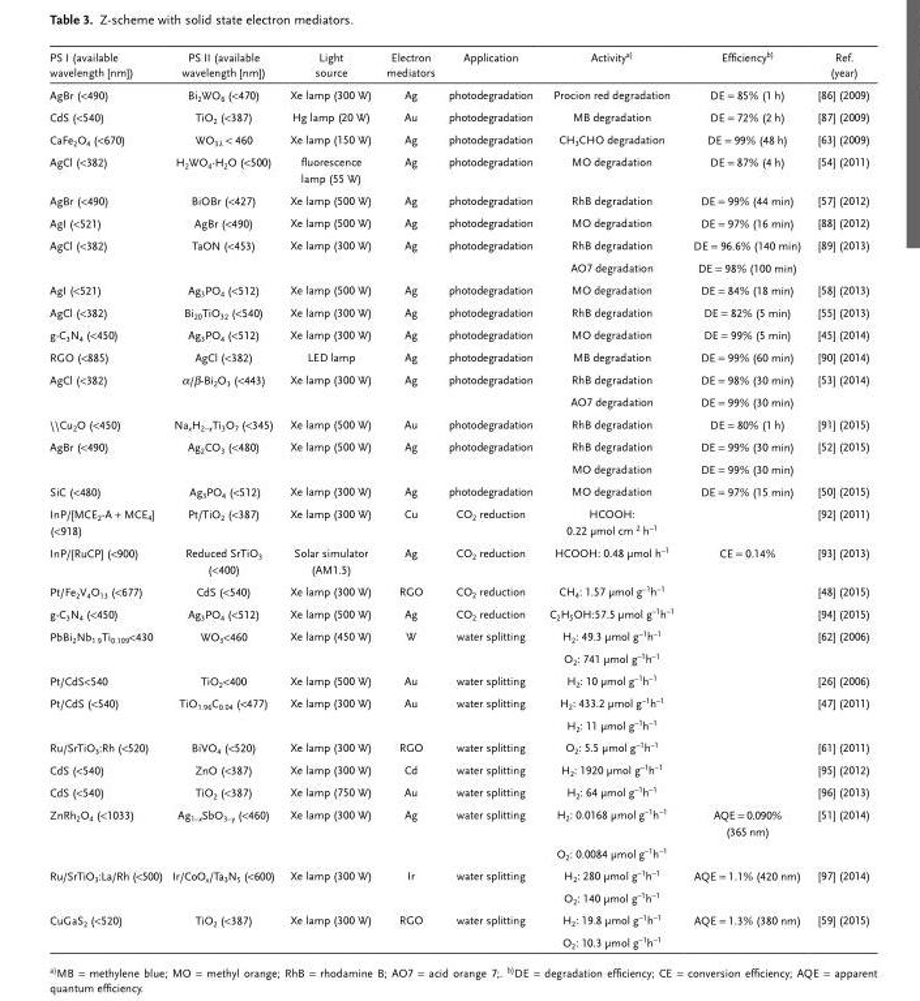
<table><thead><tr><td>PS I (available wavelength [nm])</td><td>PS II (available wavelength [nm])</td><td>Light source</td><td>Electron mediators</td><td>Application</td><td>Activitya)</td><td>Efficiencyb)</td><td>Ref. (year)</td></tr></thead><tbody><tr><td>AgBr (&lt;490)</td><td>Bi<sub>2</sub>WO<sub>6</sub> (&lt;470)</td><td>Xe lamp (300 W)</td><td>Ag</td><td>photodegradation</td><td>Procion red degradation</td><td>DE = 85% (1 h)</td><td>[86] (2009)</td></tr><tr><td>CdS (&lt;540)</td><td>TiO<sub>2</sub> (&lt;387)</td><td>Hg lamp (20 W)</td><td>Au</td><td>photodegradation</td><td>MB degradation</td><td>DE = 72% (2 h)</td><td>[87] (2009)</td></tr><tr><td>CaFe<sub>2</sub>O<sub>4</sub> (&lt;670)</td><td>WO<sub>3</sub>λ &lt; 460</td><td>Xe lamp (150 W)</td><td>Ag</td><td>photodegradation</td><td>CH<sub>3</sub>CHO degradation</td><td>DE = 99% (48 h)</td><td>[63] (2009)</td></tr><tr><td>AgCl (&lt;382)</td><td>H<sub>2</sub>WO<sub>4</sub>·H<sub>2</sub>O (&lt;500)</td><td>fluorescence lamp (55 W)</td><td>Ag</td><td>photodegradation</td><td>MO degradation</td><td>DE = 87% (4 h)</td><td>[54] (2011)</td></tr><tr><td>AgBr (&lt;490)</td><td>BiOBr (&lt;427)</td><td>Xe lamp (500 W)</td><td>Ag</td><td>photodegradation</td><td>RhB degradation</td><td>DE = 99% (44 min)</td><td>[57] (2012)</td></tr><tr><td>AgI (&lt;521)</td><td>AgBr (&lt;490)</td><td>Xe lamp (500 W)</td><td>Ag</td><td>photodegradation</td><td>MO degradation</td><td>DE = 97% (16 min)</td><td>[88] (2012)</td></tr><tr><td rowspan="2">AgCl (&lt;382)</td><td>TaON (&lt;453)</td><td>Xe lamp (300 W)</td><td>Ag</td><td>photodegradation</td><td>RhB degradation</td><td>DE = 96.6% (140 min)</td><td>[89] (2013)</td></tr><tr><td></td><td></td><td></td><td></td><td>AO7 degradation</td><td>DE = 98% (100 min)</td><td></td></tr><tr><td>AgI (&lt;521)</td><td>Ag<sub>3</sub>PO<sub>4</sub> (&lt;512)</td><td>Xe lamp (500 W)</td><td>Ag</td><td>photodegradation</td><td>MO degradation</td><td>DE = 84% (18 min)</td><td>[58] (2013)</td></tr><tr><td>AgCl (&lt;382)</td><td>Bi<sub>20</sub>TiO<sub>32</sub> (&lt;540)</td><td>Xe lamp (300 W)</td><td>Ag</td><td>photodegradation</td><td>RhB degradation</td><td>DE = 82% (5 min)</td><td>[55] (2013)</td></tr><tr><td>g-C<sub>3</sub>N<sub>4</sub> (&lt;450)</td><td>Ag<sub>3</sub>PO<sub>4</sub> (&lt;512)</td><td>Xe lamp (300 W)</td><td>Ag</td><td>photodegradation</td><td>MO degradation</td><td>DE = 99% (5 min)</td><td>[45] (2014)</td></tr><tr><td>RGO (&lt;885)</td><td>AgCl (&lt;382)</td><td>LED lamp</td><td>Ag</td><td>photodegradation</td><td>MB degradation</td><td>DE = 99% (60 min)</td><td>[90] (2014)</td></tr><tr><td rowspan="2">AgCl (&lt;382)</td><td>α/β-Bi<sub>2</sub>O<sub>3</sub> (&lt;443)</td><td>Xe lamp (300 W)</td><td>Ag</td><td>photodegradation</td><td>RhB degradation</td><td>DE = 98% (30 min)</td><td>[53] (2014)</td></tr><tr><td></td><td></td><td></td><td></td><td>AO7 degradation</td><td>DE = 99% (30 min)</td><td></td></tr><tr><td>\\Cu<sub>2</sub>O (&lt;450)</td><td>Na<sub>x</sub>H<sub>2−x</sub>Ti<sub>3</sub>O<sub>7</sub> (&lt;345)</td><td>Xe lamp (500 W)</td><td>Au</td><td>photodegradation</td><td>RhB degradation</td><td>DE = 80% (1 h)</td><td>[91] (2015)</td></tr><tr><td rowspan="2">AgBr (&lt;490)</td><td>Ag<sub>2</sub>CO<sub>3</sub> (&lt;480)</td><td>Xe lamp (500 W)</td><td>Ag</td><td>photodegradation</td><td>RhB degradation</td><td>DE = 99% (30 min)</td><td>[52] (2015)</td></tr><tr><td></td><td></td><td></td><td></td><td>MO degradation</td><td>DE = 99% (30 min)</td><td></td></tr><tr><td>SiC (&lt;480)</td><td>Ag<sub>3</sub>PO<sub>4</sub> (&lt;512)</td><td>Xe lamp (300 W)</td><td>Ag</td><td>photodegradation</td><td>MO degradation</td><td>DE = 97% (15 min)</td><td>[50] (2015)</td></tr><tr><td>InP/[MCE<sub>2</sub>-A + MCE<sub>4</sub>] (&lt;918)</td><td>Pt/TiO<sub>2</sub> (&lt;387)</td><td>Xe lamp (300 W)</td><td>Cu</td><td>CO<sub>2</sub> reduction</td><td>HCOOH: 0.22 μmol cm <sup>2</sup> h<sup>–1</sup></td><td></td><td>[92] (2011)</td></tr><tr><td>InP/[RuCP] (&lt;900)</td><td>Reduced SrTiO<sub>3</sub> (&lt;400)</td><td>Solar simulator (AM1.5)</td><td>Ag</td><td>CO<sub>2</sub> reduction</td><td>HCOOH: 0.48 μmol h<sup>–1</sup></td><td>CE = 0.14%</td><td>[93] (2013)</td></tr><tr><td>Pt/Fe<sub>2</sub>V<sub>4</sub>O<sub>13</sub> (&lt;677)</td><td>CdS (&lt;540)</td><td>Xe lamp (300 W)</td><td>RGO</td><td>CO<sub>2</sub> reduction</td><td>CH<sub>4</sub>: 1.57 μmol g<sup>–1</sup>h<sup>–1</sup></td><td></td><td>[48] (2015)</td></tr><tr><td>g-C<sub>3</sub>N<sub>4</sub> (&lt;450)</td><td>Ag<sub>3</sub>PO<sub>4</sub> (&lt;512)</td><td>Xe lamp (500 W)</td><td>Ag</td><td>CO<sub>2</sub> reduction</td><td>C<sub>2</sub>H<sub>5</sub>OH:57.5 μmol g<sup>–1</sup>h<sup>–1</sup></td><td></td><td>[94] (2015)</td></tr><tr><td rowspan="2">PbBi<sub>2</sub>Nb<sub>1.9</sub>Ti<sub>0.109</sub>&lt;430</td><td>WO<sub>3</sub>&lt;460</td><td>Xe lamp (450 W)</td><td>W</td><td>water splitting</td><td>H<sub>2</sub>: 49.3 μmol g<sup>–1</sup>h<sup>–1</sup></td><td></td><td>[62] (2006)</td></tr><tr><td></td><td></td><td></td><td></td><td>O<sub>2</sub>: 741 μmol g<sup>–1</sup>h<sup>–1</sup></td><td></td><td></td></tr><tr><td>Pt/CdS&lt;540</td><td>TiO<sub>2</sub>&lt;400</td><td>Xe lamp (500 W)</td><td>Au</td><td>water splitting</td><td>H<sub>2</sub>: 10 μmol g<sup>–1</sup>h<sup>–1</sup></td><td></td><td>[26] (2006)</td></tr><tr><td rowspan="2">Pt/CdS (&lt;540)</td><td>TiO<sub>1.96</sub>C<sub>0.04</sub> (&lt;477)</td><td>Xe lamp (300 W)</td><td>Au</td><td>water splitting</td><td>H<sub>2</sub>: 433.2 μmol g<sup>–1</sup>h<sup>–1</sup></td><td></td><td>[47] (2011)</td></tr><tr><td></td><td></td><td></td><td></td><td>H<sub>2</sub>: 11 μmol g<sup>–1</sup>h<sup>–1</sup></td><td></td><td></td></tr><tr><td>Ru/SrTiO<sub>3</sub>:Rh (&lt;520)</td><td>BiVO<sub>4</sub> (&lt;520)</td><td>Xe lamp (300 W)</td><td>RGO</td><td>water splitting</td><td>O<sub>2</sub>: 5.5 μmol g<sup>–1</sup>h<sup>–1</sup></td><td></td><td>[61] (2011)</td></tr><tr><td>CdS (&lt;540)</td><td>ZnO (&lt;387)</td><td>Xe lamp (300 W)</td><td>Cd</td><td>water splitting</td><td>H<sub>2</sub>: 1920 μmol g<sup>–1</sup>h<sup>–1</sup></td><td></td><td>[95] (2012)</td></tr><tr><td>CdS (&lt;540)</td><td>TiO<sub>2</sub> (&lt;387)</td><td>Xe lamp (750 W)</td><td>Au</td><td>water splitting</td><td>H<sub>2</sub>: 64 μmol g<sup>–1</sup>h<sup>–1</sup></td><td></td><td>[96] (2013)</td></tr><tr><td rowspan="2">ZnRh<sub>2</sub>O<sub>4</sub> (&lt;1033)</td><td>Ag<sub>1–x</sub>SbO<sub>3–y</sub> (&lt;460)</td><td>Xe lamp (300 W)</td><td>Ag</td><td>water splitting</td><td>H<sub>2</sub>: 0.0168 μmol g<sup>–1</sup>h<sup>–1</sup></td><td>AQE = 0.090% (365 nm)</td><td>[51] (2014)</td></tr><tr><td></td><td></td><td></td><td></td><td>O<sub>2</sub>: 0.0084 μmol g<sup>–1</sup>h<sup>–1</sup></td><td></td><td></td></tr><tr><td rowspan="2">Ru/SrTiO<sub>3</sub>:La/Rh (&lt;500)</td><td>Ir/CoO<sub>x</sub>/Ta<sub>3</sub>N<sub>5</sub> (&lt;600)</td><td>Xe lamp (300 W)</td><td>Ir</td><td>water splitting</td><td>H<sub>2</sub>: 280 μmol g<sup>–1</sup>h<sup>–1</sup></td><td>AQE = 1.1% (420 nm)</td><td>[97] (2014)</td></tr><tr><td></td><td></td><td></td><td></td><td>O<sub>2</sub>: 140 μmol g<sup>–1</sup>h<sup>–1</sup></td><td></td><td></td></tr><tr><td rowspan="2">CuGaS<sub>2</sub> (&lt;520)</td><td>TiO<sub>2</sub> (&lt;387)</td><td>Xe lamp (300 W)</td><td>RGO</td><td>water splitting</td><td>H<sub>2</sub>: 19.8 μmol g<sup>–1</sup>h<sup>–1</sup></td><td>AQE = 1.3% (380 nm)</td><td>[59] (2015)</td></tr><tr><td></td><td></td><td></td><td></td><td>O<sub>2</sub>: 10.3 μmol g<sup>–1</sup>h<sup>–1</sup></td><td></td><td></td></tr></tbody></table>